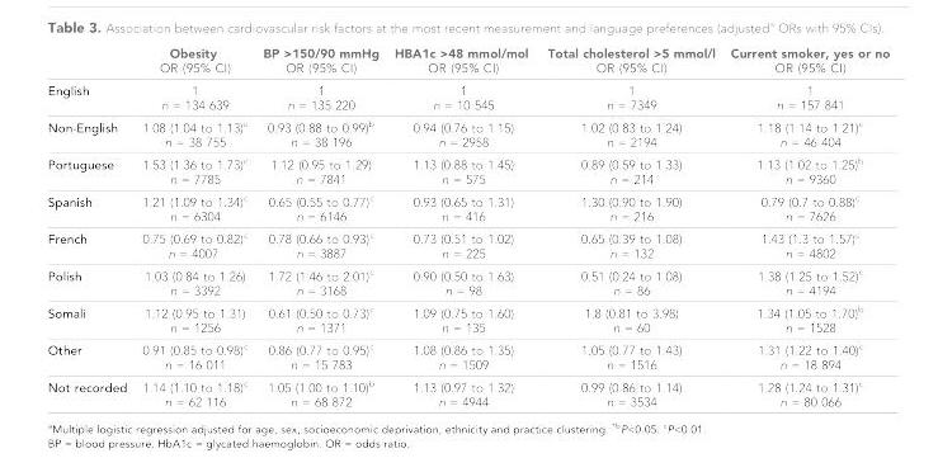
<table><thead><tr><td></td><td>Obesity OR (95% CI)</td><td>BP &gt;150/90 mmHg OR (95% CI)</td><td>HBA1c &gt;48 mmol/mol OR (95% CI)</td><td>Total cholesterol &gt;5 mmol/l OR (95% CI)</td><td>Current smoker, yes or no OR (95% CI)</td></tr></thead><tbody><tr><td>English</td><td>1 n = 134 639</td><td>1 n = 135 220</td><td>1 n = 10 545</td><td>1 n = 7349</td><td>1 n = 157 841</td></tr><tr><td>Non-English</td><td>1.08 (1.04 to 1.13)<sup>c</sup> n = 38 755</td><td>0.93 (0.88 to 0.99)<sup>b</sup> n = 38 196</td><td>0.94 (0.76 to 1.15) n = 2958</td><td>1.02 (0.83 to 1.24) n = 2194</td><td>1.18 (1.14 to 1.21)<sup>c</sup> n = 46 404</td></tr><tr><td>Portuguese</td><td>1.53 (1.36 to 1.73)<sup>c</sup> n = 7785</td><td>1.12 (0.95 to 1.29) n = 7841</td><td>1.13 (0.88 to 1.45) n = 575</td><td>0.89 (0.59 to 1.33) n = 214</td><td>1.13 (1.02 to 1.25)<sup>b</sup> n = 9360</td></tr><tr><td>Spanish</td><td>1.21 (1.09 to 1.34)<sup>c</sup> n = 6304</td><td>0.65 (0.55 to 0.77)<sup>c</sup> n = 6146</td><td>0.93 (0.65 to 1.31) n = 416</td><td>1.30 (0.90 to 1.90) n = 216</td><td>0.79 (0.7 to 0.88)<sup>c</sup> n = 7626</td></tr><tr><td>French</td><td>0.75 (0.69 to 0.82)<sup>c</sup> n = 4007</td><td>0.78 (0.66 to 0.93)<sup>c</sup> n = 3887</td><td>0.73 (0.51 to 1.02) n = 225</td><td>0.65 (0.39 to 1.08) n = 132</td><td>1.43 (1.3 to 1.57)<sup>c</sup> n = 4802</td></tr><tr><td>Polish</td><td>1.03 (0.84 to 1.26) n = 3392</td><td>1.72 (1.46 to 2.01)<sup>c</sup> n = 3168</td><td>0.90 (0.50 to 1.63) n = 98</td><td>0.51 (0.24 to 1.08) n = 86</td><td>1.38 (1.25 to 1.52)<sup>c</sup> n = 4194</td></tr><tr><td>Somali</td><td>1.12 (0.95 to 1.31) n = 1256</td><td>0.61 (0.50 to 0.73)<sup>c</sup> n = 1371</td><td>1.09 (0.75 to 1.60) n = 135</td><td>1.8 (0.81 to 3.98) n = 60</td><td>1.34 (1.05 to 1.70)<sup>b</sup> n = 1528</td></tr><tr><td>Other</td><td>0.91 (0.85 to 0.98)<sup>c</sup> n = 16 011</td><td>0.86 (0.77 to 0.95)<sup>c</sup> n = 15 783</td><td>1.08 (0.86 to 1.35) n = 1509</td><td>1.05 (0.77 to 1.43) n = 1516</td><td>1.31 (1.22 to 1.40)<sup>c</sup> n = 18 894</td></tr><tr><td>Not recorded</td><td>1.14 (1.10 to 1.18)<sup>c</sup> n = 62 116</td><td>1.05 (1.00 to 1.10)<sup>b</sup> n = 68 872</td><td>1.13 (0.97 to 1.32) n = 4944</td><td>0.99 (0.86 to 1.14) n = 3534</td><td>1.28 (1.24 to 1.31)<sup>c</sup> n = 80 066</td></tr></tbody></table>